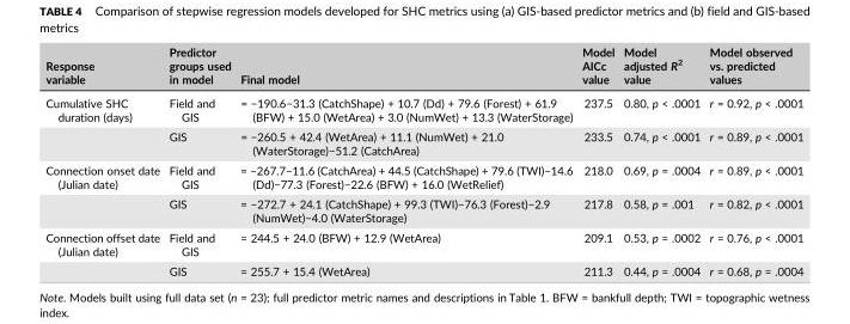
<table><thead><tr><td>Response variable</td><td>Predictor groups used in model</td><td>Final model</td><td>Model AICc value</td><td>Model adjusted R<sup>2</sup> value</td><td>Model observed vs. predicted values</td></tr></thead><tbody><tr><td rowspan="2">Cumulative SHC duration (days)</td><td>Field and GIS</td><td>= −190.6−31.3 (CatchShape) + 10.7 (Dd) + 79.6 (Forest) + 61.9 (BFW) + 15.0 (WetArea) + 3.0 (NumWet) + 13.3 (WaterStorage)</td><td>237.5</td><td>0.80, p &lt; .0001</td><td>r = 0.92, p &lt; .0001</td></tr><tr><td>GIS</td><td>= −260.5 + 42.4 (WetArea) + 11.1 (NumWet) + 21.0 (WaterStorage)−51.2 (CatchArea)</td><td>233.5</td><td>0.74, p &lt; .0001</td><td>r = 0.89, p &lt; .0001</td></tr><tr><td rowspan="2">Connection onset date (Julian date)</td><td>Field and GIS</td><td>= −267.7−11.6 (CatchArea) + 44.5 (CatchShape) + 79.6 (TWI)−14.6 (Dd)−77.3 (Forest)−22.6 (BFW) + 16.0 (WetRelief)</td><td>218.0</td><td>0.69, p = .0004</td><td>r = 0.89, p &lt; .0001</td></tr><tr><td>GIS</td><td>= −272.7 + 24.1 (CatchShape) + 99.3 (TWI)−76.3 (Forest)−2.9 (NumWet)−4.0 (WaterStorage)</td><td>217.8</td><td>0.58, p = .001</td><td>r = 0.82, p &lt; .0001</td></tr><tr><td rowspan="2">Connection offset date (Julian date)</td><td>Field and GIS</td><td>= 244.5 + 24.0 (BFW) + 12.9 (WetArea)</td><td>209.1</td><td>0.53, p = .0002</td><td>r = 0.76, p &lt; .0001</td></tr><tr><td>GIS</td><td>= 255.7 + 15.4 (WetArea)</td><td>211.3</td><td>0.44, p = .0004</td><td>r = 0.68, p = .0004</td></tr></tbody></table>